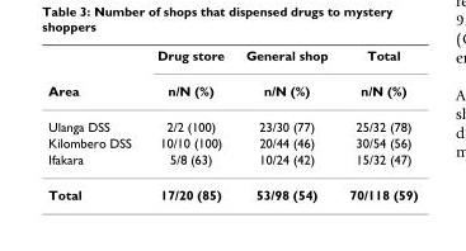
<table><thead><tr><td rowspan="2">Area</td><td rowspan="2">Drug store n/N (%)</td><td rowspan="2">General shop n/N (%)</td><td rowspan="2">Total n/N (%)</td></tr><tr></tr></thead><tbody><tr><td>Ulanga DSS</td><td>2/2 (100)</td><td>23/30 (77)</td><td>25/32 (78)</td></tr><tr><td>Kilombero DSS</td><td>10/10 (100)</td><td>20/44 (46)</td><td>30/54 (56)</td></tr><tr><td>Ifakara</td><td>5/8 (63)</td><td>10/24 (42)</td><td>15/32 (47)</td></tr><tr><td>Total</td><td>17/20 (85)</td><td>53/98 (54)</td><td>70/118 (59)</td></tr></tbody></table>